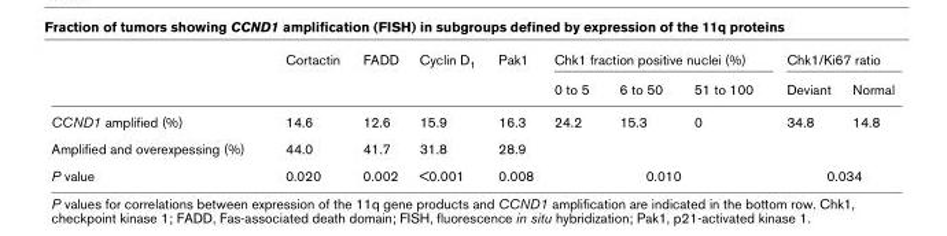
<table><thead><tr><td rowspan="2"></td><td rowspan="2">Cortactin</td><td rowspan="2">FADD</td><td rowspan="2">Cyclin D<sub>1</sub></td><td rowspan="2">Pak1</td><td colspan="3">Chk1 fraction positive nuclei (%)</td><td colspan="2">Chk1/Ki67 ratio</td></tr><tr><td>0 to 5</td><td>6 to 50</td><td>51 to 100</td><td>Deviant</td><td>Normal</td></tr></thead><tbody><tr><td>CCND1 amplified (%)</td><td>14.6</td><td>12.6</td><td>15.9</td><td>16.3</td><td>24.2</td><td>15.3</td><td>0</td><td>34.8</td><td>14.8</td></tr><tr><td>Amplified and overexpessing (%)</td><td>44.0</td><td>41.7</td><td>31.8</td><td>28.9</td><td></td><td></td><td></td><td></td><td></td></tr><tr><td>P value</td><td>0.020</td><td>0.002</td><td>&lt;0.001</td><td>0.008</td><td colspan="3">0.010</td><td colspan="2">0.034</td></tr></tbody></table>